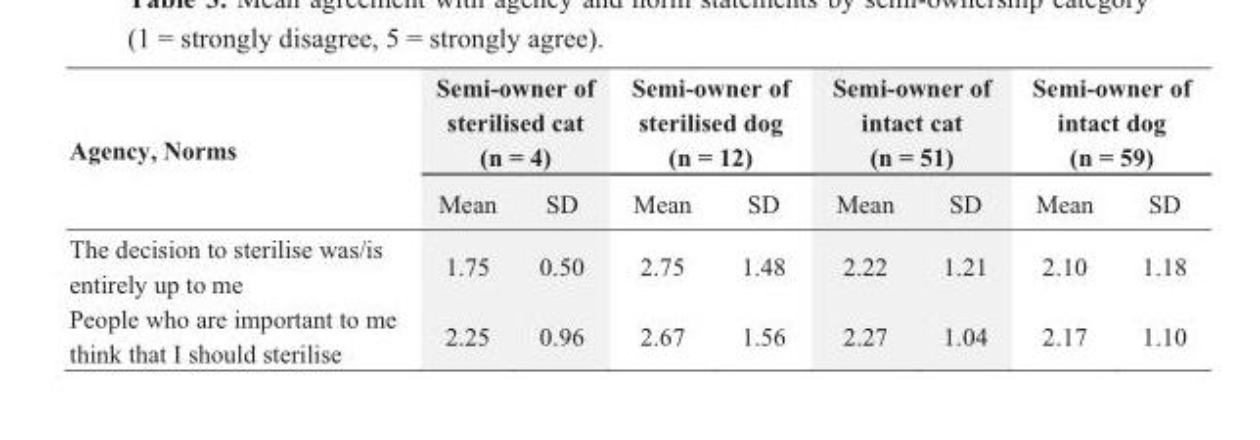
<table><thead><tr><td rowspan="2">Agency, Norms</td><td colspan="2">Semi-owner of sterilised cat (n = 4)</td><td colspan="2">Semi-owner of sterilised dog (n = 12)</td><td colspan="2">Semi-owner of intact cat (n = 51)</td><td colspan="2">Semi-owner of intact dog (n = 59)</td></tr><tr><td>Mean</td><td>SD</td><td>Mean</td><td>SD</td><td>Mean</td><td>SD</td><td>Mean</td><td>SD�</td></tr></thead><tbody><tr><td>The decision to sterilise was/is entirely up to me</td><td>1.75</td><td>0.50</td><td>2.75</td><td>1.48</td><td>2.22</td><td>1.21</td><td>2.10</td><td>1.18</td></tr><tr><td>People who are important to me think that I should sterilise</td><td>2.25</td><td>0.96</td><td>2.67</td><td>1.56</td><td>2.27</td><td>1.04</td><td>2.17</td><td>1.10</td></tr></tbody></table>